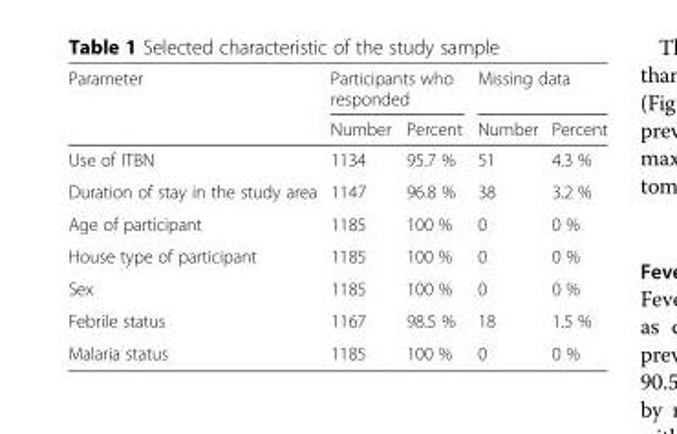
<table><thead><tr><td rowspan="2">Parameter</td><td colspan="2">Participants who responded</td><td colspan="2">Missing data</td></tr><tr><td>Number</td><td>Percent</td><td>Number</td><td>Percent</td></tr></thead><tbody><tr><td>Use of ITBN</td><td>1134</td><td>95.7 %</td><td>51</td><td>4.3 %</td></tr><tr><td>Duration of stay in the study area</td><td>1147</td><td>96.8 %</td><td>38</td><td>3.2 %</td></tr><tr><td>Age of participant</td><td>1185</td><td>100 %</td><td>0</td><td>0 %</td></tr><tr><td>House type of participant</td><td>1185</td><td>100 %</td><td>0</td><td>0 %</td></tr><tr><td>Sex</td><td>1185</td><td>100 %</td><td>0</td><td>0 %</td></tr><tr><td>Febrile status</td><td>1167</td><td>98.5 %</td><td>18</td><td>1.5 %</td></tr><tr><td>Malaria status</td><td>1185</td><td>100 %</td><td>0</td><td>0 %</td></tr></tbody></table>